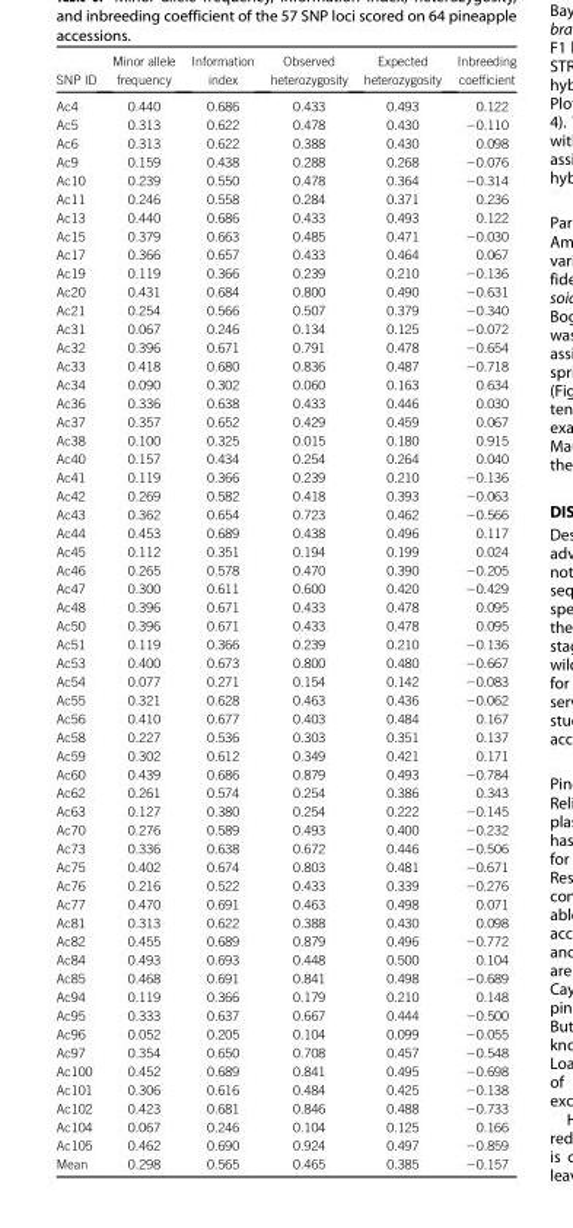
<table><thead><tr><td>SNP ID</td><td>Minor allele frequency</td><td>Information index</td><td>Observed heterozygosity</td><td>Expected heterozygosity</td><td>Inbreeding coefficient</td></tr></thead><tbody><tr><td>Ac4</td><td>0.440</td><td>0.686</td><td>0.433</td><td>0.493</td><td>0.122</td></tr><tr><td>Ac5</td><td>0.313</td><td>0.622</td><td>0.478</td><td>0.430</td><td>−0.110</td></tr><tr><td>Ac6</td><td>0.313</td><td>0.622</td><td>0.388</td><td>0.430</td><td>0.098</td></tr><tr><td>Ac9</td><td>0.159</td><td>0.438</td><td>0.288</td><td>0.268</td><td>−0.076</td></tr><tr><td>Ac10</td><td>0.239</td><td>0.550</td><td>0.478</td><td>0.364</td><td>−0.314</td></tr><tr><td>Ac11</td><td>0.246</td><td>0.558</td><td>0.284</td><td>0.371</td><td>0.236</td></tr><tr><td>Ac13</td><td>0.440</td><td>0.686</td><td>0.433</td><td>0.493</td><td>0.122</td></tr><tr><td>Ac15</td><td>0.379</td><td>0.663</td><td>0.485</td><td>0.471</td><td>−0.030</td></tr><tr><td>Ac17</td><td>0.366</td><td>0.657</td><td>0.433</td><td>0.464</td><td>0.067</td></tr><tr><td>Ac19</td><td>0.119</td><td>0.366</td><td>0.239</td><td>0.210</td><td>−0.136</td></tr><tr><td>Ac20</td><td>0.431</td><td>0.684</td><td>0.800</td><td>0.490</td><td>−0.631</td></tr><tr><td>Ac21</td><td>0.254</td><td>0.566</td><td>0.507</td><td>0.379</td><td>−0.340</td></tr><tr><td>Ac31</td><td>0.067</td><td>0.246</td><td>0.134</td><td>0.125</td><td>−0.072</td></tr><tr><td>Ac32</td><td>0.396</td><td>0.671</td><td>0.791</td><td>0.478</td><td>−0.654</td></tr><tr><td>Ac33</td><td>0.418</td><td>0.680</td><td>0.836</td><td>0.487</td><td>−0.718</td></tr><tr><td>Ac34</td><td>0.090</td><td>0.302</td><td>0.060</td><td>0.163</td><td>0.634</td></tr><tr><td>Ac36</td><td>0.336</td><td>0.638</td><td>0.433</td><td>0.446</td><td>0.030</td></tr><tr><td>Ac37</td><td>0.357</td><td>0.652</td><td>0.429</td><td>0.459</td><td>0.067</td></tr><tr><td>Ac38</td><td>0.100</td><td>0.325</td><td>0.015</td><td>0.180</td><td>0.915</td></tr><tr><td>Ac40</td><td>0.157</td><td>0.434</td><td>0.254</td><td>0.264</td><td>0.040</td></tr><tr><td>Ac41</td><td>0.119</td><td>0.366</td><td>0.239</td><td>0.210</td><td>−0.136</td></tr><tr><td>Ac42</td><td>0.269</td><td>0.582</td><td>0.418</td><td>0.393</td><td>−0.063</td></tr><tr><td>Ac43</td><td>0.362</td><td>0.654</td><td>0.723</td><td>0.462</td><td>−0.566</td></tr><tr><td>Ac44</td><td>0.453</td><td>0.689</td><td>0.438</td><td>0.496</td><td>0.117</td></tr><tr><td>Ac45</td><td>0.112</td><td>0.351</td><td>0.194</td><td>0.199</td><td>0.024</td></tr><tr><td>Ac46</td><td>0.265</td><td>0.578</td><td>0.470</td><td>0.390</td><td>−0.205</td></tr><tr><td>Ac47</td><td>0.300</td><td>0.611</td><td>0.600</td><td>0.420</td><td>−0.429</td></tr><tr><td>Ac48</td><td>0.396</td><td>0.671</td><td>0.433</td><td>0.478</td><td>0.095</td></tr><tr><td>Ac50</td><td>0.396</td><td>0.671</td><td>0.433</td><td>0.478</td><td>0.095</td></tr><tr><td>Ac51</td><td>0.119</td><td>0.366</td><td>0.239</td><td>0.210</td><td>−0.136</td></tr><tr><td>Ac53</td><td>0.400</td><td>0.673</td><td>0.800</td><td>0.480</td><td>−0.667</td></tr><tr><td>Ac54</td><td>0.077</td><td>0.271</td><td>0.154</td><td>0.142</td><td>−0.083</td></tr><tr><td>Ac55</td><td>0.321</td><td>0.628</td><td>0.463</td><td>0.436</td><td>−0.062</td></tr><tr><td>Ac56</td><td>0.410</td><td>0.677</td><td>0.403</td><td>0.484</td><td>0.167</td></tr><tr><td>Ac58</td><td>0.227</td><td>0.536</td><td>0.303</td><td>0.351</td><td>0.137</td></tr><tr><td>Ac59</td><td>0.302</td><td>0.612</td><td>0.349</td><td>0.421</td><td>0.171</td></tr><tr><td>Ac60</td><td>0.439</td><td>0.686</td><td>0.879</td><td>0.493</td><td>−0.784</td></tr><tr><td>Ac62</td><td>0.261</td><td>0.574</td><td>0.254</td><td>0.386</td><td>0.343</td></tr><tr><td>Ac63</td><td>0.127</td><td>0.380</td><td>0.254</td><td>0.222</td><td>−0.145</td></tr><tr><td>Ac70</td><td>0.276</td><td>0.589</td><td>0.493</td><td>0.400</td><td>−0.232</td></tr><tr><td>Ac73</td><td>0.336</td><td>0.638</td><td>0.672</td><td>0.446</td><td>−0.506</td></tr><tr><td>Ac75</td><td>0.402</td><td>0.674</td><td>0.803</td><td>0.481</td><td>−0.671</td></tr><tr><td>Ac76</td><td>0.216</td><td>0.522</td><td>0.433</td><td>0.339</td><td>−0.276</td></tr><tr><td>Ac77</td><td>0.470</td><td>0.691</td><td>0.463</td><td>0.498</td><td>0.071</td></tr><tr><td>Ac81</td><td>0.313</td><td>0.622</td><td>0.388</td><td>0.430</td><td>0.098</td></tr><tr><td>Ac82</td><td>0.455</td><td>0.689</td><td>0.879</td><td>0.496</td><td>−0.772</td></tr><tr><td>Ac84</td><td>0.493</td><td>0.693</td><td>0.448</td><td>0.500</td><td>0.104</td></tr><tr><td>Ac85</td><td>0.468</td><td>0.691</td><td>0.841</td><td>0.498</td><td>−0.689</td></tr><tr><td>Ac94</td><td>0.119</td><td>0.366</td><td>0.179</td><td>0.210</td><td>0.148</td></tr><tr><td>Ac95</td><td>0.333</td><td>0.637</td><td>0.667</td><td>0.444</td><td>−0.500</td></tr><tr><td>Ac96</td><td>0.052</td><td>0.205</td><td>0.104</td><td>0.099</td><td>−0.055</td></tr><tr><td>Ac97</td><td>0.354</td><td>0.650</td><td>0.708</td><td>0.457</td><td>−0.548</td></tr><tr><td>Ac100</td><td>0.452</td><td>0.689</td><td>0.841</td><td>0.495</td><td>−0.698</td></tr><tr><td>Ac101</td><td>0.306</td><td>0.616</td><td>0.484</td><td>0.425</td><td>−0.138</td></tr><tr><td>Ac102</td><td>0.423</td><td>0.681</td><td>0.846</td><td>0.488</td><td>−0.733</td></tr><tr><td>Ac104</td><td>0.067</td><td>0.246</td><td>0.104</td><td>0.125</td><td>0.166</td></tr><tr><td>Ac105</td><td>0.462</td><td>0.690</td><td>0.924</td><td>0.497</td><td>−0.859</td></tr><tr><td>Mean</td><td>0.298</td><td>0.565</td><td>0.465</td><td>0.385</td><td>−0.157</td></tr></tbody></table>